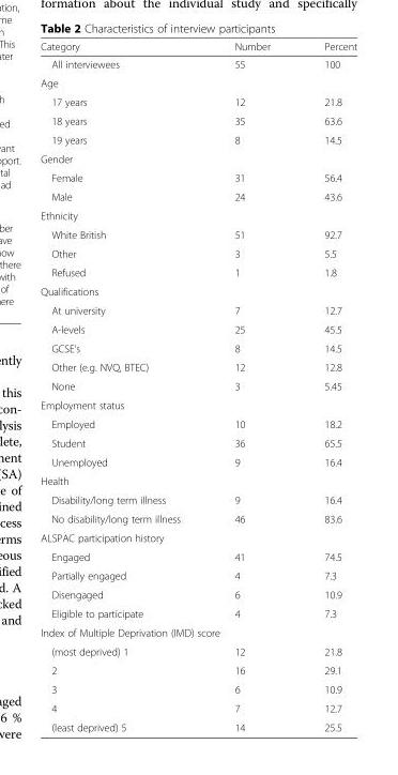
<table><thead><tr><td>Category</td><td>Number</td><td>Percent</td></tr></thead><tbody><tr><td>All interviewees</td><td>55</td><td>100</td></tr><tr><td colspan="3">Age</td></tr><tr><td>17 years</td><td>12</td><td>21.8</td></tr><tr><td>18 years</td><td>35</td><td>63.6</td></tr><tr><td>19 years</td><td>8</td><td>14.5</td></tr><tr><td colspan="3">Gender</td></tr><tr><td>Female</td><td>31</td><td>56.4</td></tr><tr><td>Male</td><td>24</td><td>43.6</td></tr><tr><td colspan="3">Ethnicity</td></tr><tr><td>White British</td><td>51</td><td>92.7</td></tr><tr><td>Other</td><td>3</td><td>5.5</td></tr><tr><td>Refused</td><td>1</td><td>1.8</td></tr><tr><td colspan="3">Qualifications</td></tr><tr><td>At university</td><td>7</td><td>12.7</td></tr><tr><td>A-levels</td><td>25</td><td>45.5</td></tr><tr><td>GCSE’s</td><td>8</td><td>14.5</td></tr><tr><td>Other (e.g. NVQ, BTEC)</td><td>12</td><td>12.8</td></tr><tr><td>None</td><td>3</td><td>5.45</td></tr><tr><td colspan="3">Employment status</td></tr><tr><td>Employed</td><td>10</td><td>18.2</td></tr><tr><td>Student</td><td>36</td><td>65.5</td></tr><tr><td>Unemployed</td><td>9</td><td>16.4</td></tr><tr><td colspan="3">Health</td></tr><tr><td>Disability/long term illness</td><td>9</td><td>16.4</td></tr><tr><td>No disability/long term illness</td><td>46</td><td>83.6</td></tr><tr><td colspan="3">ALSPAC participation history</td></tr><tr><td>Engaged</td><td>41</td><td>74.5</td></tr><tr><td>Partially engaged</td><td>4</td><td>7.3</td></tr><tr><td>Disengaged</td><td>6</td><td>10.9</td></tr><tr><td>Eligible to participate</td><td>4</td><td>7.3</td></tr><tr><td colspan="3">Index of Multiple Deprivation (IMD) score</td></tr><tr><td>(most deprived) 1</td><td>12</td><td>21.8</td></tr><tr><td>2</td><td>16</td><td>29.1</td></tr><tr><td>3</td><td>6</td><td>10.9</td></tr><tr><td>4</td><td>7</td><td>12.7</td></tr><tr><td>(least deprived) 5</td><td>14</td><td>25.5</td></tr></tbody></table>